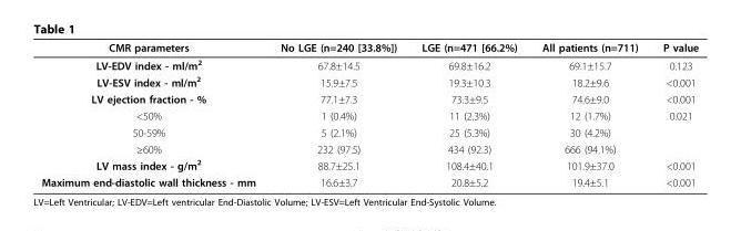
<table><thead><tr><td>CMR parameters</td><td>No LGE (n=240 [33.8%])</td><td>LGE (n=471 [66.2%)</td><td>All patients (n=711)</td><td>P value</td></tr></thead><tbody><tr><td>LV-EDV index - ml/m<sup>2</sup></td><td>67.8±14.5</td><td>69.8±16.2</td><td>69.1±15.7</td><td>0.123</td></tr><tr><td>LV-ESV index - ml/m<sup>2</sup></td><td>15.9±7.5</td><td>19.3±10.3</td><td>18.2±9.6</td><td>&lt;0.001</td></tr><tr><td>LV ejection fraction - %</td><td>77.1±7.3</td><td>73.3±9.5</td><td>74.6±9.0</td><td>&lt;0.001</td></tr><tr><td>&lt;50%</td><td>1 (0.4%)</td><td>11 (2.3%)</td><td>12 (1.7%)</td><td>0.021</td></tr><tr><td>50-59%</td><td>5 (2.1%)</td><td>25 (5.3%)</td><td>30 (4.2%)</td><td></td></tr><tr><td>≥60%</td><td>232 (97.5)</td><td>434 (92.3)</td><td>666 (94.1%)</td><td></td></tr><tr><td>LV mass index - g/m<sup>2</sup></td><td>88.7±25.1</td><td>108.4±40.1</td><td>101.9±37.0</td><td>&lt;0.001</td></tr><tr><td>Maximum end-diastolic wall thickness - mm</td><td>16.6±3.7</td><td>20.8±5.2</td><td>19.4±5.1</td><td>&lt;0.001</td></tr></tbody></table>